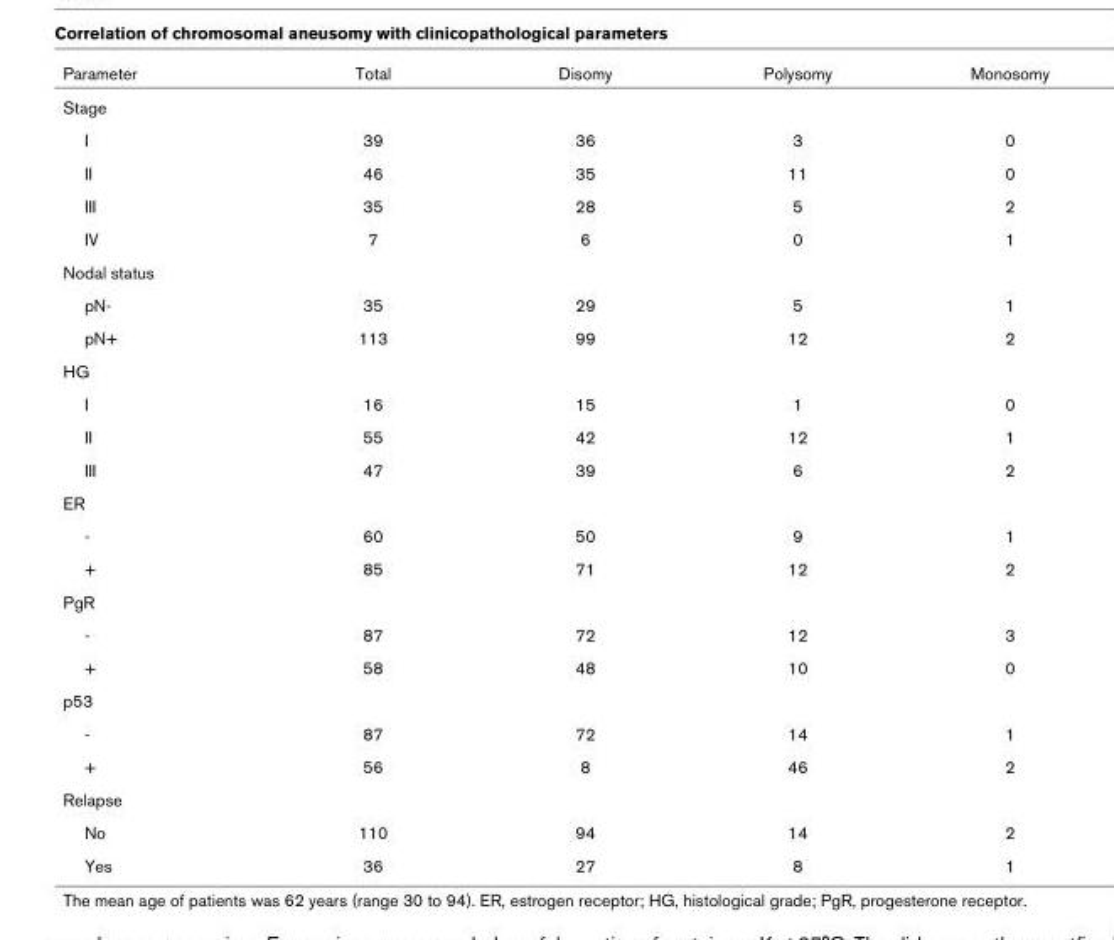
<table><thead><tr><td>Parameter</td><td>Total</td><td>Disomy</td><td>Polysomy</td><td>Monosomy</td></tr></thead><tbody><tr><td colspan="5">Stage</td></tr><tr><td>I</td><td>39</td><td>36</td><td>3</td><td>0</td></tr><tr><td>II</td><td>46</td><td>35</td><td>11</td><td>0</td></tr><tr><td>III</td><td>35</td><td>28</td><td>5</td><td>2</td></tr><tr><td>IV</td><td>7</td><td>6</td><td>0</td><td>1</td></tr><tr><td colspan="5">Nodal status</td></tr><tr><td>pN-</td><td>35</td><td>29</td><td>5</td><td>1</td></tr><tr><td>pN+</td><td>113</td><td>99</td><td>12</td><td>2</td></tr><tr><td colspan="5">HG</td></tr><tr><td>I</td><td>16</td><td>15</td><td>1</td><td>0</td></tr><tr><td>II</td><td>55</td><td>42</td><td>12</td><td>1</td></tr><tr><td>III</td><td>47</td><td>39</td><td>6</td><td>2</td></tr><tr><td colspan="5">ER</td></tr><tr><td>-</td><td>60</td><td>50</td><td>9</td><td>1</td></tr><tr><td>+</td><td>85</td><td>71</td><td>12</td><td>2</td></tr><tr><td colspan="5">PgR</td></tr><tr><td>-</td><td>87</td><td>72</td><td>12</td><td>3</td></tr><tr><td>+</td><td>58</td><td>48</td><td>10</td><td>0</td></tr><tr><td colspan="5">p53</td></tr><tr><td>-</td><td>87</td><td>72</td><td>14</td><td>1</td></tr><tr><td>+</td><td>56</td><td>8</td><td>46</td><td>2</td></tr><tr><td colspan="5">Relapse</td></tr><tr><td>No</td><td>110</td><td>94</td><td>14</td><td>2</td></tr><tr><td>Yes</td><td>36</td><td>27</td><td>8</td><td>1</td></tr></tbody></table>